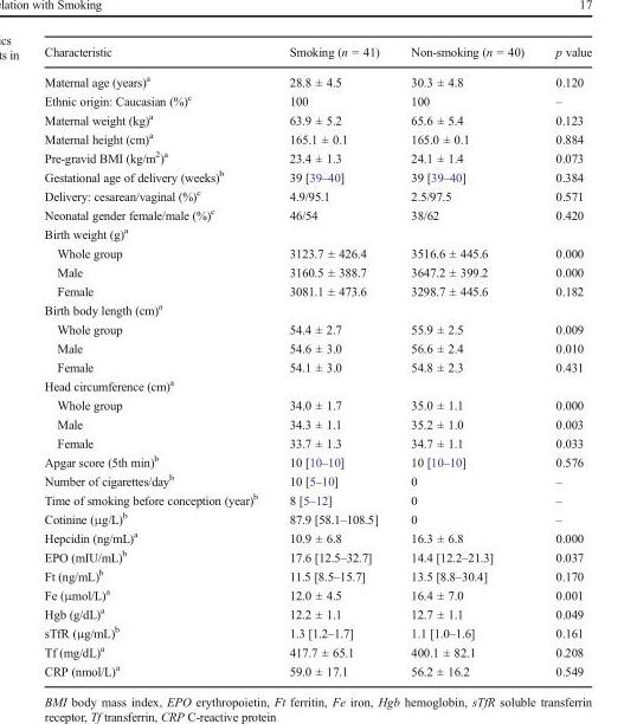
<table><thead><tr><td>Characteristic</td><td>Smoking (n = 41)</td><td>Non-smoking (n = 40)</td><td>p value</td></tr></thead><tbody><tr><td>Maternal age (years)<sup>a</sup></td><td>28.8 ± 4.5</td><td>30.3 ± 4.8</td><td>0.120</td></tr><tr><td>Ethnic origin: Caucasian (%)<sup>c</sup></td><td>100</td><td>100</td><td>–</td></tr><tr><td>Maternal weight (kg)<sup>a</sup></td><td>63.9 ± 5.2</td><td>65.6 ± 5.4</td><td>0.123</td></tr><tr><td>Maternal height (cm)<sup>a</sup></td><td>165.1 ± 0.1</td><td>165.0 ± 0.1</td><td>0.884</td></tr><tr><td>Pre-gravid BMI (kg/m<sup>2</sup>)<sup>a</sup></td><td>23.4 ± 1.3</td><td>24.1 ± 1.4</td><td>0.073</td></tr><tr><td>Gestational age of delivery (weeks)<sup>b</sup></td><td>39 [39–40]</td><td>39 [39–40]</td><td>0.384</td></tr><tr><td>Delivery: cesarean/vaginal (%)<sup>c</sup></td><td>4.9/95.1</td><td>2.5/97.5</td><td>0.571</td></tr><tr><td>Neonatal gender female/male (%)<sup>c</sup></td><td>46/54</td><td>38/62</td><td>0.420</td></tr><tr><td colspan="4">Birth weight (g)<sup>a</sup></td></tr><tr><td>Whole group</td><td>3123.7 ± 426.4</td><td>3516.6 ± 445.6</td><td>0.000</td></tr><tr><td>Male</td><td>3160.5 ± 388.7</td><td>3647.2 ± 399.2</td><td>0.000</td></tr><tr><td>Female</td><td>3081.1 ± 473.6</td><td>3298.7 ± 445.6</td><td>0.182</td></tr><tr><td colspan="4">Birth body length (cm)<sup>a</sup></td></tr><tr><td>Whole group</td><td>54.4 ± 2.7</td><td>55.9 ± 2.5</td><td>0.009</td></tr><tr><td>Male</td><td>54.6 ± 3.0</td><td>56.6 ± 2.4</td><td>0.010</td></tr><tr><td>Female</td><td>54.1 ± 3.0</td><td>54.8 ± 2.3</td><td>0.431</td></tr><tr><td colspan="4">Head circumference (cm)<sup>a</sup></td></tr><tr><td>Whole group</td><td>34.0 ± 1.7</td><td>35.0 ± 1.1</td><td>0.000</td></tr><tr><td>Male</td><td>34.3 ± 1.1</td><td>35.2 ± 1.0</td><td>0.003</td></tr><tr><td>Female</td><td>33.7 ± 1.3</td><td>34.7 ± 1.1</td><td>0.033</td></tr><tr><td>Apgar score (5th min)<sup>b</sup></td><td>10 [10–10]</td><td>10 [10–10]</td><td>0.576</td></tr><tr><td>Number of cigarettes/day<sup>b</sup></td><td>10 [5–10]</td><td>0</td><td>–</td></tr><tr><td>Time of smoking before conception (year)<sup>b</sup></td><td>8 [5–12]</td><td>0</td><td>–</td></tr><tr><td>Cotinine (μg/L)<sup>b</sup></td><td>87.9 [58.1–108.5]</td><td>0</td><td>–</td></tr><tr><td>Hepcidin (ng/mL)<sup>a</sup></td><td>10.9 ± 6.8</td><td>16.3 ± 6.8</td><td>0.000</td></tr><tr><td>EPO (mIU/mL)<sup>b</sup></td><td>17.6 [12.5–32.7]</td><td>14.4 [12.2–21.3]</td><td>0.037</td></tr><tr><td>Ft (ng/mL)<sup>b</sup></td><td>11.5 [8.5–15.7]</td><td>13.5 [8.8–30.4]</td><td>0.170</td></tr><tr><td>Fe (μmol/L)<sup>a</sup></td><td>12.0 ± 4.5</td><td>16.4 ± 7.0</td><td>0.001</td></tr><tr><td>Hgb (g/dL)<sup>a</sup></td><td>12.2 ± 1.1</td><td>12.7 ± 1.1</td><td>0.049</td></tr><tr><td>sTfR (μg/mL)<sup>b</sup></td><td>1.3 [1.2–1.7]</td><td>1.1 [1.0–1.6]</td><td>0.161</td></tr><tr><td>Tf (mg/dL)<sup>a</sup></td><td>417.7 ± 65.1</td><td>400.1 ± 82.1</td><td>0.208</td></tr><tr><td>CRP (nmol/L)<sup>a</sup></td><td>59.0 ± 17.1</td><td>56.2 ± 16.2</td><td>0.549</td></tr></tbody></table>